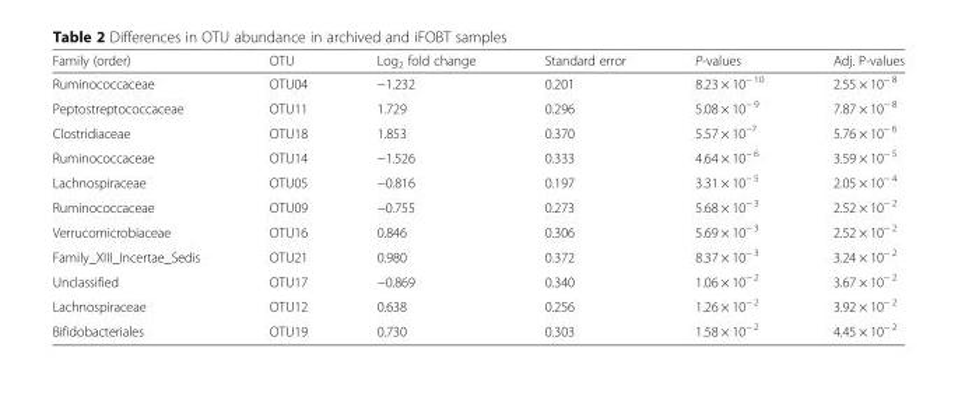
<table><thead><tr><td>Family (order)</td><td>OTU</td><td>Log<sub>2</sub> fold change</td><td>Standard error</td><td>P-values</td><td>Adj. P-values</td></tr></thead><tbody><tr><td>Ruminococcaceae</td><td>OTU04</td><td>−1.232</td><td>0.201</td><td>8.23 × 10<sup>− 10</sup></td><td>2.55 × 10<sup>− 8</sup></td></tr><tr><td>Peptostreptococcaceae</td><td>OTU11</td><td>1.729</td><td>0.296</td><td>5.08 × 10<sup>− 9</sup></td><td>7.87 × 10<sup>− 8</sup></td></tr><tr><td>Clostridiaceae</td><td>OTU18</td><td>1.853</td><td>0.370</td><td>5.57 × 10<sup>−7</sup></td><td>5.76 × 10<sup>− 6</sup></td></tr><tr><td>Ruminococcaceae</td><td>OTU14</td><td>−1.526</td><td>0.333</td><td>4.64 × 10<sup>− 6</sup></td><td>3.59 × 10<sup>− 5</sup></td></tr><tr><td>Lachnospiraceae</td><td>OTU05</td><td>−0.816</td><td>0.197</td><td>3.31 × 10<sup>− 5</sup></td><td>2.05 × 10<sup>− 4</sup></td></tr><tr><td>Ruminococcaceae</td><td>OTU09</td><td>−0.755</td><td>0.273</td><td>5.68 × 10<sup>− 3</sup></td><td>2.52 × 10<sup>− 2</sup></td></tr><tr><td>Verrucomicrobiaceae</td><td>OTU16</td><td>0.846</td><td>0.306</td><td>5.69 × 10<sup>− 3</sup></td><td>2.52 × 10<sup>− 2</sup></td></tr><tr><td>Family_XIII_Incertae_Sedis</td><td>OTU21</td><td>0.980</td><td>0.372</td><td>8.37 × 10<sup>− 3</sup></td><td>3.24 × 10<sup>− 2</sup></td></tr><tr><td>Unclassified</td><td>OTU17</td><td>−0.869</td><td>0.340</td><td>1.06 × 10<sup>− 2</sup></td><td>3.67 × 10<sup>− 2</sup></td></tr><tr><td>Lachnospiraceae</td><td>OTU12</td><td>0.638</td><td>0.256</td><td>1.26 × 10<sup>− 2</sup></td><td>3.92 × 10<sup>− 2</sup></td></tr><tr><td>Bifidobacteriales</td><td>OTU19</td><td>0.730</td><td>0.303</td><td>1.58 × 10<sup>− 2</sup></td><td>4.45 × 10<sup>− 2</sup></td></tr></tbody></table>